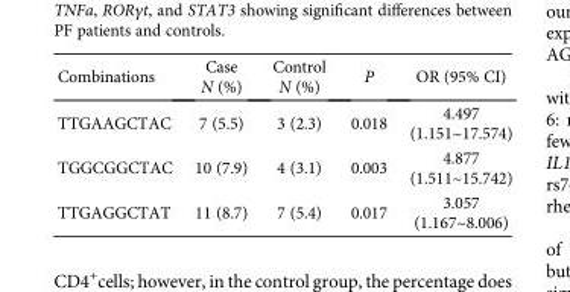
<table><thead><tr><td>Combinations</td><td>Case N (%)</td><td>Control N (%)</td><td>P</td><td>OR (95% CI)</td></tr></thead><tbody><tr><td>TTGAAGCTAC</td><td>7 (5.5)</td><td>3 (2.3)</td><td>0.018</td><td>4.497 (1.151~17.574)</td></tr><tr><td>TGGCGGCTAC</td><td>10 (7.9)</td><td>4 (3.1)</td><td>0.003</td><td>4.877 (1.511~15.742)</td></tr><tr><td>TTGAGGCTAT</td><td>11 (8.7)</td><td>7 (5.4)</td><td>0.017</td><td>3.057 (1.167~8.006)</td></tr></tbody></table>